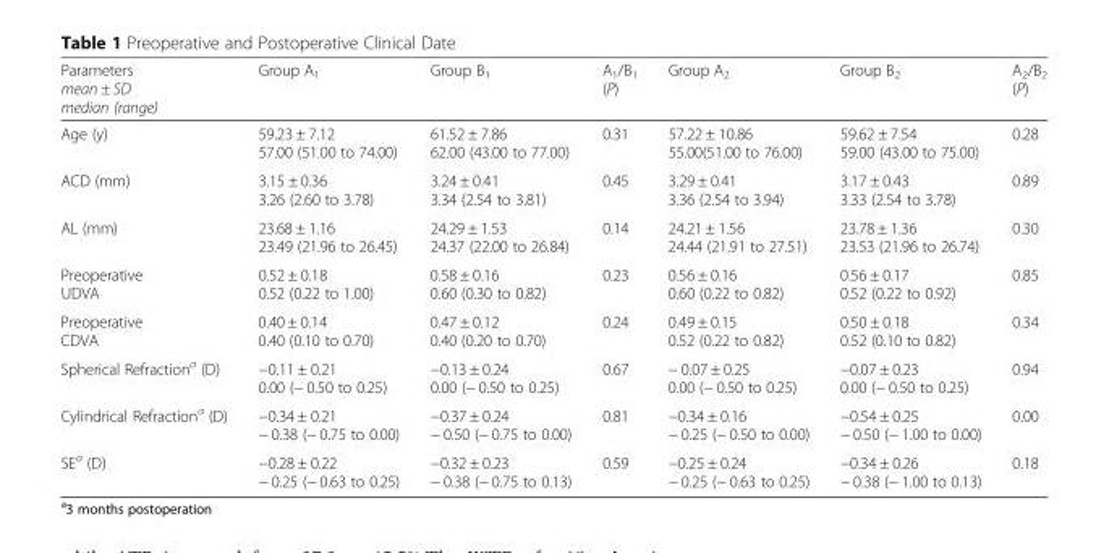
<table><thead><tr><td>Parameters mean ± SD median (range)</td><td>Group A<sub>1</sub></td><td>Group B<sub>1</sub></td><td>A<sub>1</sub>/B<sub>1</sub> (P)</td><td>Group A<sub>2</sub></td><td>Group B<sub>2</sub></td><td>A<sub>2</sub>/B<sub>2</sub> (P)</td></tr></thead><tbody><tr><td>Age (y)</td><td>59.23 ± 7.12 57.00 (51.00 to 74.00)</td><td>61.52 ± 7.86 62.00 (43.00 to 77.00)</td><td>0.31</td><td>57.22 ± 10.86 55.00(51.00 to 76.00)</td><td>59.62 ± 7.54 59.00 (43.00 to 75.00)</td><td>0.28</td></tr><tr><td>ACD (mm)</td><td>3.15 ± 0.36 3.26 (2.60 to 3.78)</td><td>3.24 ± 0.41 3.34 (2.54 to 3.81)</td><td>0.45</td><td>3.29 ± 0.41 3.36 (2.54 to 3.94)</td><td>3.17 ± 0.43 3.33 (2.54 to 3.78)</td><td>0.89</td></tr><tr><td>AL (mm)</td><td>23.68 ± 1.16 23.49 (21.96 to 26.45)</td><td>24.29 ± 1.53 24.37 (22.00 to 26.84)</td><td>0.14</td><td>24.21 ± 1.56 24.44 (21.91 to 27.51)</td><td>23.78 ± 1.36 23.53 (21.96 to 26.74)</td><td>0.30</td></tr><tr><td>Preoperative UDVA</td><td>0.52 ± 0.18 0.52 (0.22 to 1.00)</td><td>0.58 ± 0.16 0.60 (0.30 to 0.82)</td><td>0.23</td><td>0.56 ± 0.16 0.60 (0.22 to 0.82)</td><td>0.56 ± 0.17 0.52 (0.22 to 0.92)</td><td>0.85</td></tr><tr><td>Preoperative CDVA</td><td>0.40 ± 0.14 0.40 (0.10 to 0.70)</td><td>0.47 ± 0.12 0.40 (0.20 to 0.70)</td><td>0.24</td><td>0.49 ± 0.15 0.52 (0.22 to 0.82)</td><td>0.50 ± 0.18 0.52 (0.10 to 0.82)</td><td>0.34</td></tr><tr><td>Spherical Refraction<sup>a</sup> (D)</td><td>−0.11 ± 0.21 0.00 (− 0.50 to 0.25)</td><td>−0.13 ± 0.24 0.00 (− 0.50 to 0.25)</td><td>0.67</td><td>− 0.07 ± 0.25 0.00 (− 0.50 to 0.25)</td><td>−0.07 ± 0.23 0.00 (− 0.50 to 0.25)</td><td>0.94</td></tr><tr><td>Cylindrical Refraction<sup>a</sup> (D)</td><td>−0.34 ± 0.21 − 0.38 (− 0.75 to 0.00)</td><td>−0.37 ± 0.24 − 0.50 (− 0.75 to 0.00)</td><td>0.81</td><td>−0.34 ± 0.16 − 0.25 (− 0.50 to 0.00)</td><td>−0.54 ± 0.25 − 0.50 (− 1.00 to 0.00)</td><td>0.00</td></tr><tr><td>SE<sup>a</sup> (D)</td><td>−0.28 ± 0.22 − 0.25 (− 0.63 to 0.25)</td><td>−0.32 ± 0.23 − 0.38 (− 0.75 to 0.13)</td><td>0.59</td><td>−0.25 ± 0.24 − 0.25 (− 0.63 to 0.25)</td><td>−0.34 ± 0.26 − 0.38 (− 1.00 to 0.13)</td><td>0.18</td></tr></tbody></table>